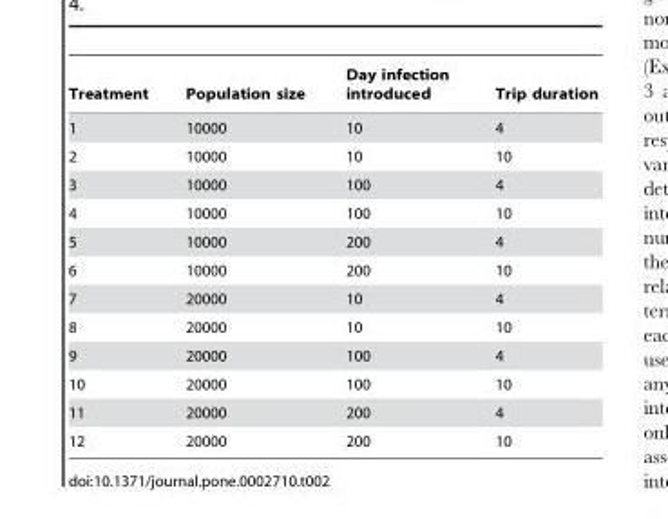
<table><thead><tr><td>Treatment</td><td>Population size</td><td>Day infection introduced</td><td>Trip duration</td></tr></thead><tbody><tr><td>1</td><td>10000</td><td>10</td><td>4</td></tr><tr><td>2</td><td>10000</td><td>10</td><td>10</td></tr><tr><td>3</td><td>10000</td><td>100</td><td>4</td></tr><tr><td>4</td><td>10000</td><td>100</td><td>10</td></tr><tr><td>5</td><td>10000</td><td>200</td><td>4</td></tr><tr><td>6</td><td>10000</td><td>200</td><td>10</td></tr><tr><td>7</td><td>20000</td><td>10</td><td>4</td></tr><tr><td>8</td><td>20000</td><td>10</td><td>10</td></tr><tr><td>9</td><td>20000</td><td>100</td><td>4</td></tr><tr><td>10</td><td>20000</td><td>100</td><td>10</td></tr><tr><td>11</td><td>20000</td><td>200</td><td>4</td></tr><tr><td>12</td><td>20000</td><td>200</td><td>10</td></tr></tbody></table>